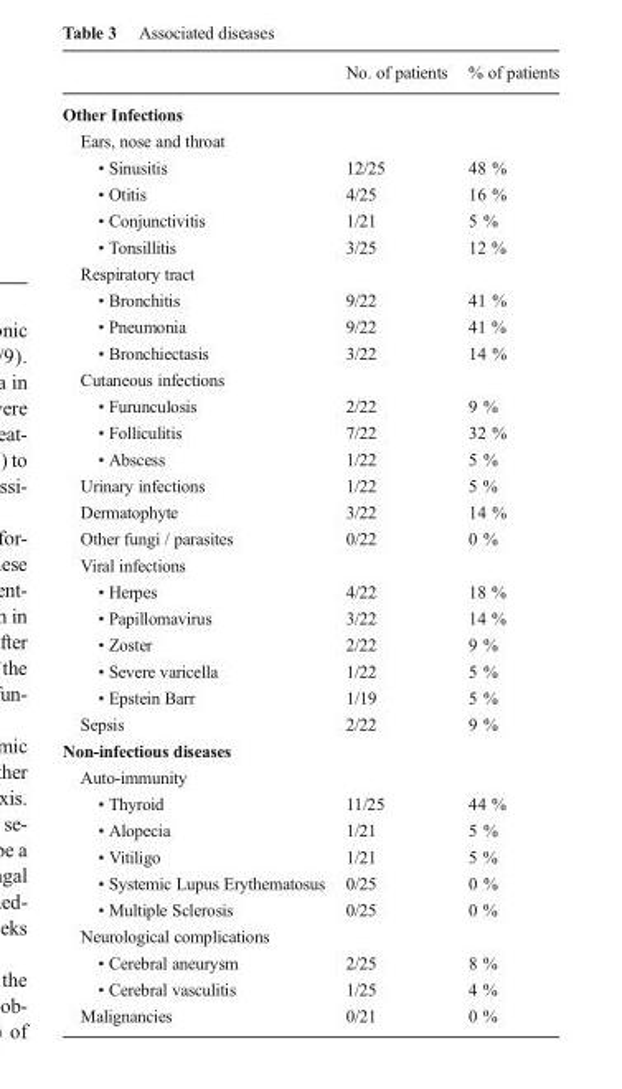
<table><thead><tr><td></td><td>No. of patients</td><td>% of patients</td></tr></thead><tbody><tr><td colspan="3">Other Infections</td></tr><tr><td colspan="3">Ears, nose and throat</td></tr><tr><td>• Sinusitis</td><td>12/25</td><td>48 %</td></tr><tr><td>• Otitis</td><td>4/25</td><td>16 %</td></tr><tr><td>• Conjunctivitis</td><td>1/21</td><td>5 %</td></tr><tr><td>• Tonsillitis</td><td>3/25</td><td>12 %</td></tr><tr><td colspan="3">Respiratory tract</td></tr><tr><td>• Bronchitis</td><td>9/22</td><td>41 %</td></tr><tr><td>• Pneumonia</td><td>9/22</td><td>41 %</td></tr><tr><td>• Bronchiectasis</td><td>3/22</td><td>14 %</td></tr><tr><td colspan="3">Cutaneous infections</td></tr><tr><td>• Furunculosis</td><td>2/22</td><td>9 %</td></tr><tr><td>• Folliculitis</td><td>7/22</td><td>32 %</td></tr><tr><td>• Abscess</td><td>1/22</td><td>5 %</td></tr><tr><td>Urinary infections</td><td>1/22</td><td>5 %</td></tr><tr><td>Dermatophyte</td><td>3/22</td><td>14 %</td></tr><tr><td>Other fungi / parasites</td><td>0/22</td><td>0 %</td></tr><tr><td colspan="3">Viral infections</td></tr><tr><td>• Herpes</td><td>4/22</td><td>18 %</td></tr><tr><td>• Papillomavirus</td><td>3/22</td><td>14 %</td></tr><tr><td>• Zoster</td><td>2/22</td><td>9 %</td></tr><tr><td>• Severe varicella</td><td>1/22</td><td>5 %</td></tr><tr><td>• Epstein Barr</td><td>1/19</td><td>5 %</td></tr><tr><td>Sepsis</td><td>2/22</td><td>9 %</td></tr><tr><td colspan="3">Non-infectious diseases</td></tr><tr><td colspan="3">Auto-immunity</td></tr><tr><td>• Thyroid</td><td>11/25</td><td>44 %</td></tr><tr><td>• Alopecia</td><td>1/21</td><td>5 %</td></tr><tr><td>• Vitiligo</td><td>1/21</td><td>5 %</td></tr><tr><td>• Systemic Lupus Erythematosus</td><td>0/25</td><td>0 %</td></tr><tr><td>• Multiple Sclerosis</td><td>0/25</td><td>0 %</td></tr><tr><td colspan="3">Neurological complications</td></tr><tr><td>• Cerebral aneurysm</td><td>2/25</td><td>8 %</td></tr><tr><td>• Cerebral vasculitis</td><td>1/25</td><td>4 %</td></tr><tr><td>Malignancies</td><td>0/21</td><td>0 %</td></tr></tbody></table>